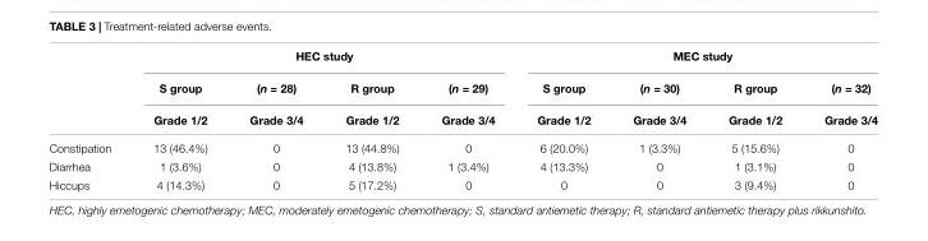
<table><thead><tr><td rowspan="3"></td><td colspan="4">HEC study</td><td colspan="4">MEC study</td></tr><tr><td rowspan="2">S group Grade 1/2</td><td rowspan="2">(n = 28) Grade 3/4</td><td rowspan="2">R group Grade 1/2</td><td rowspan="2">(n = 29) Grade 3/4</td><td rowspan="2">S group Grade 1/2</td><td rowspan="2">(n = 30) Grade 3/4</td><td rowspan="2">R group Grade 1/2</td><td rowspan="2">(n = 32) Grade 3/4</td></tr><tr></tr></thead><tbody><tr><td>Constipation</td><td>13 (46.4%)</td><td>0</td><td>13 (44.8%)</td><td>0</td><td>6 (20.0%)</td><td>1 (3.3%)</td><td>5 (15.6%)</td><td>0</td></tr><tr><td>Diarrhea</td><td>1 (3.6%)</td><td>0</td><td>4 (13.8%)</td><td>1 (3.4%)</td><td>4 (13.3%)</td><td>0</td><td>1 (3.1%)</td><td>0</td></tr><tr><td>Hiccups</td><td>4 (14.3%)</td><td>0</td><td>5 (17.2%)</td><td>0</td><td>0</td><td>0</td><td>3 (9.4%)</td><td>0</td></tr></tbody></table>